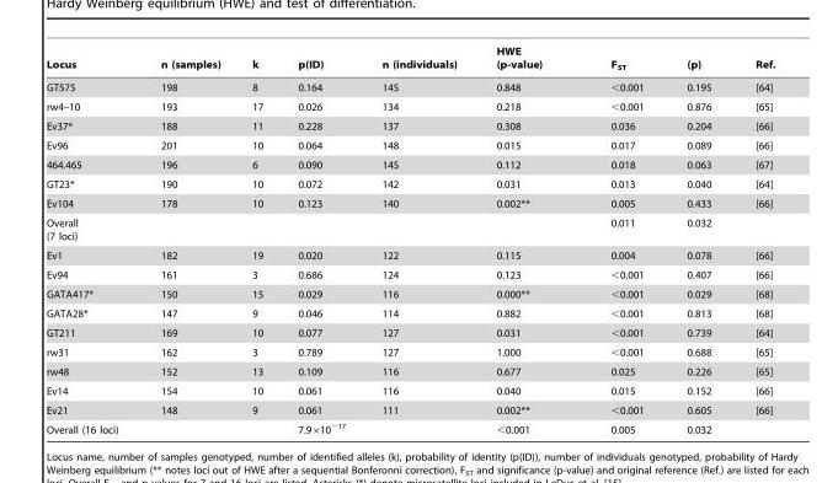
<table><thead><tr><td>Locus</td><td>n (samples)</td><td>k</td><td>p(ID)</td><td>n (individuals)</td><td>HWE (p-value)</td><td>F<sub>ST</sub></td><td>(p)</td><td>Ref.</td></tr></thead><tbody><tr><td>GT575</td><td>198</td><td>8</td><td>0.164</td><td>145</td><td>0.848</td><td>&lt;0.001</td><td>0.195</td><td>[64]</td></tr><tr><td>rw4–10</td><td>193</td><td>17</td><td>0.026</td><td>134</td><td>0.218</td><td>&lt;0.001</td><td>0.876</td><td>[65]</td></tr><tr><td>Ev37*</td><td>188</td><td>11</td><td>0.228</td><td>137</td><td>0.308</td><td>0.036</td><td>0.204</td><td>[66]</td></tr><tr><td>Ev96</td><td>201</td><td>10</td><td>0.064</td><td>148</td><td>0.015</td><td>0.017</td><td>0.089</td><td>[66]</td></tr><tr><td>464.465</td><td>196</td><td>6</td><td>0.090</td><td>145</td><td>0.112</td><td>0.018</td><td>0.063</td><td>[67]</td></tr><tr><td>GT23*</td><td>190</td><td>10</td><td>0.072</td><td>142</td><td>0.031</td><td>0.013</td><td>0.040</td><td>[64]</td></tr><tr><td>Ev104</td><td>178</td><td>10</td><td>0.123</td><td>140</td><td>0.002**</td><td>0.005</td><td>0.433</td><td>[66]</td></tr><tr><td>Overall (7 loci)</td><td></td><td></td><td></td><td></td><td></td><td>0.011</td><td>0.032</td><td></td></tr><tr><td>Ev1</td><td>182</td><td>19</td><td>0.020</td><td>122</td><td>0.115</td><td>0.004</td><td>0.078</td><td>[66]</td></tr><tr><td>Ev94</td><td>161</td><td>3</td><td>0.686</td><td>124</td><td>0.123</td><td>&lt;0.001</td><td>0.407</td><td>[66]</td></tr><tr><td>GATA417*</td><td>150</td><td>15</td><td>0.029</td><td>116</td><td>0.000**</td><td>&lt;0.001</td><td>0.029</td><td>[68]</td></tr><tr><td>GATA28*</td><td>147</td><td>9</td><td>0.046</td><td>114</td><td>0.882</td><td>&lt;0.001</td><td>0.813</td><td>[68]</td></tr><tr><td>GT211</td><td>169</td><td>10</td><td>0.077</td><td>127</td><td>0.031</td><td>&lt;0.001</td><td>0.739</td><td>[64]</td></tr><tr><td>rw31</td><td>162</td><td>3</td><td>0.789</td><td>127</td><td>1.000</td><td>&lt;0.001</td><td>0.688</td><td>[65]</td></tr><tr><td>rw48</td><td>152</td><td>13</td><td>0.109</td><td>116</td><td>0.677</td><td>0.025</td><td>0.226</td><td>[65]</td></tr><tr><td>Ev14</td><td>154</td><td>10</td><td>0.061</td><td>116</td><td>0.040</td><td>0.015</td><td>0.152</td><td>[66]</td></tr><tr><td>Ev21</td><td>148</td><td>9</td><td>0.061</td><td>111</td><td>0.002**</td><td>&lt;0.001</td><td>0.605</td><td>[66]</td></tr><tr><td>Overall (16 loci)</td><td></td><td></td><td>7.9×10<sup>−17</sup></td><td></td><td>&lt;0.001</td><td>0.005</td><td>0.032</td><td></td></tr></tbody></table>